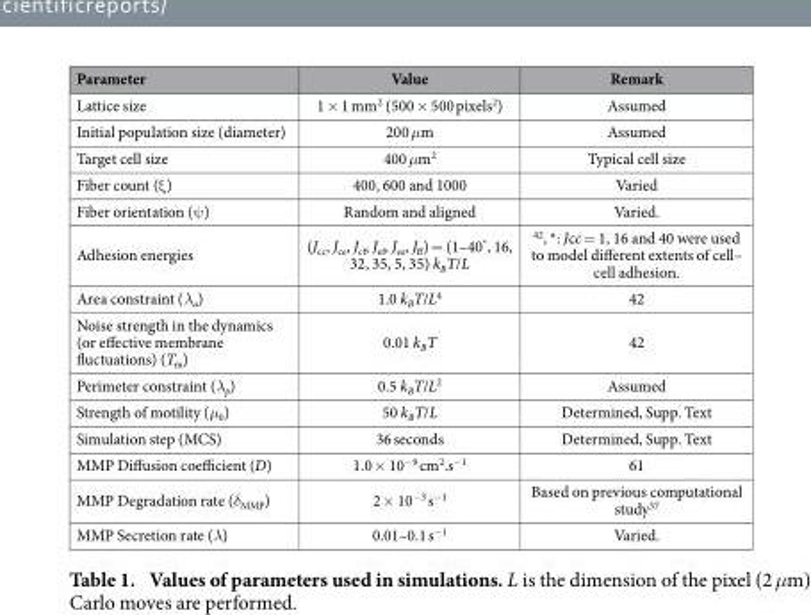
<table><thead><tr><td>Parameter</td><td>Value</td><td>Remark</td></tr></thead><tbody><tr><td>Lattice size</td><td>1 × 1 mm<sup>2</sup> (500 × 500 pixels<sup>2</sup>)</td><td>Assumed</td></tr><tr><td>Initial population size (diameter)</td><td>200 μm</td><td>Assumed</td></tr><tr><td>Target cell size</td><td>400 μm<sup>2</sup></td><td>Typical cell size</td></tr><tr><td>Fiber count (ξ )</td><td>400, 600 and 1000</td><td>Varied</td></tr><tr><td>Fiber orientation (ψ )</td><td>Random and aligned</td><td>Varied.</td></tr><tr><td>Adhesion energies</td><td>(J<sub>cc</sub>, J<sub>ce</sub>, J<sub>cf</sub>, J<sub>ef</sub>, J<sub>ee</sub>, J<sub>ff</sub>) = (1–40*, 16, 32, 35, 5, 35) k<sub>B</sub>T/L</td><td>42, *: Jcc = 1, 16 and 40 were used to model different extents of cell– cell adhesion.</td></tr><tr><td>Area constraint (λ<sub>a</sub>)</td><td>1.0 k<sub>B</sub>T/L<sup>4</sup></td><td>42</td></tr><tr><td>Noise strength in the dynamics (or effective membrane fluctuations) (T<sub>m</sub>)</td><td>0.01 k<sub>B</sub>T</td><td>42</td></tr><tr><td>Perimeter constraint (λ<sub>p</sub>)</td><td>0.5 k<sub>B</sub>T/L<sup>2</sup></td><td>Assumed</td></tr><tr><td>Strength of motility (μ<sub>0</sub>)</td><td>50 k<sub>B</sub>T/L</td><td>Determined, Supp. Text</td></tr><tr><td>Simulation step (MCS)</td><td>36 seconds</td><td>Determined, Supp. Text</td></tr><tr><td>MMP Diffusion coefficient (D)</td><td>1.0 × 10<sup>−9</sup> cm<sup>2</sup>.s<sup>−1</sup></td><td>61</td></tr><tr><td>MMP Degradation rate (δ<sub>MMP</sub>)</td><td>2 × 10<sup>−3</sup> s<sup>−1</sup></td><td>Based on previous computational study<sup>57</sup></td></tr><tr><td>MMP Secretion rate (λ)</td><td>0.01–0.1 s<sup>−1</sup></td><td>Varied.</td></tr></tbody></table>